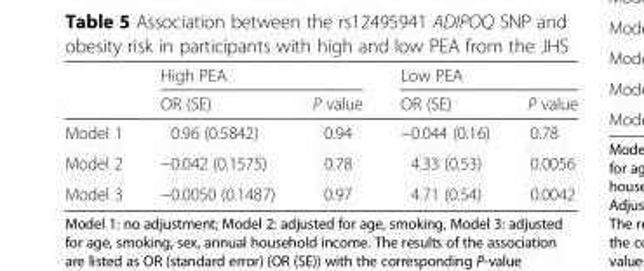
<table><thead><tr><td rowspan="2"></td><td colspan="2">High PEA</td><td colspan="2">Low PEA</td></tr><tr><td>OR (SE)</td><td>P value</td><td>OR (SE)</td><td>P value</td></tr></thead><tbody><tr><td>Model 1</td><td>0.96 (0.5842)</td><td>0.94</td><td>−0.044 (0.16)</td><td>0.78</td></tr><tr><td>Model 2</td><td>−0.042 (0.1575)</td><td>0.78</td><td>4.33 (0.53)</td><td>0.0056</td></tr><tr><td>Model 3</td><td>−0.0050 (0.1487)</td><td>0.97</td><td>4.71 (0.54)</td><td>0.0042</td></tr></tbody></table>